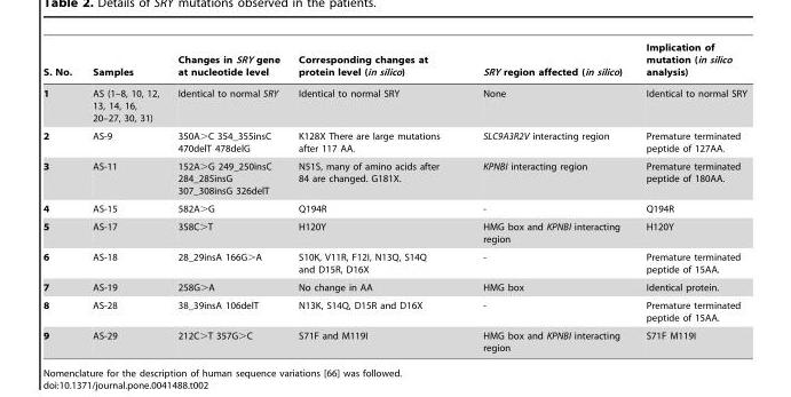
<table><thead><tr><td>S. No.</td><td>Samples</td><td>Changes in SRY gene at nucleotide level</td><td>Corresponding changes at protein level (in silico)</td><td>SRY region affected (in silico)</td><td>Implication of mutation (in silico analysis)</td></tr></thead><tbody><tr><td>1</td><td>AS (1–8, 10, 12, 13, 14, 16, 20–27, 30, 31)</td><td>Identical to normal SRY</td><td>Identical to normal SRY</td><td>None</td><td>Identical to normal SRY</td></tr><tr><td>2</td><td>AS-9</td><td>350A&gt;C 354_355insC 470delT 478delG</td><td>K128X There are large mutations after 117 AA.</td><td>SLC9A3R2V interacting region</td><td>Premature terminated peptide of 127AA.</td></tr><tr><td>3</td><td>AS-11</td><td>152A&gt;G 249_250insC 284_285insG 307_308insG 326delT</td><td>N51S, many of amino acids after 84 are changed. G181X.</td><td>KPNBI interacting region</td><td>Premature terminated peptide of 180AA.</td></tr><tr><td>4</td><td>AS-15</td><td>582A&gt;G</td><td>Q194R</td><td>-</td><td>Q194R</td></tr><tr><td>5</td><td>AS-17</td><td>358C&gt;T</td><td>H120Y</td><td>HMG box and KPNBI interacting region</td><td>H120Y</td></tr><tr><td>6</td><td>AS-18</td><td>28_29insA 166G&gt;A</td><td>S10K, V11R, F12I, N13Q, S14Q and D15R, D16X</td><td>-</td><td>Premature terminated peptide of 15AA.</td></tr><tr><td>7</td><td>AS-19</td><td>258G&gt;A</td><td>No change in AA</td><td>HMG box</td><td>Identical protein.</td></tr><tr><td>8</td><td>AS-28</td><td>38_39insA 106delT</td><td>N13K, S14Q, D15R and D16X</td><td>-</td><td>Premature terminated peptide of 15AA.</td></tr><tr><td>9</td><td>AS-29</td><td>212C&gt;T 357G&gt;C</td><td>S71F and M119I</td><td>HMG box and KPNBI interacting region</td><td>S71F M119I</td></tr></tbody></table>